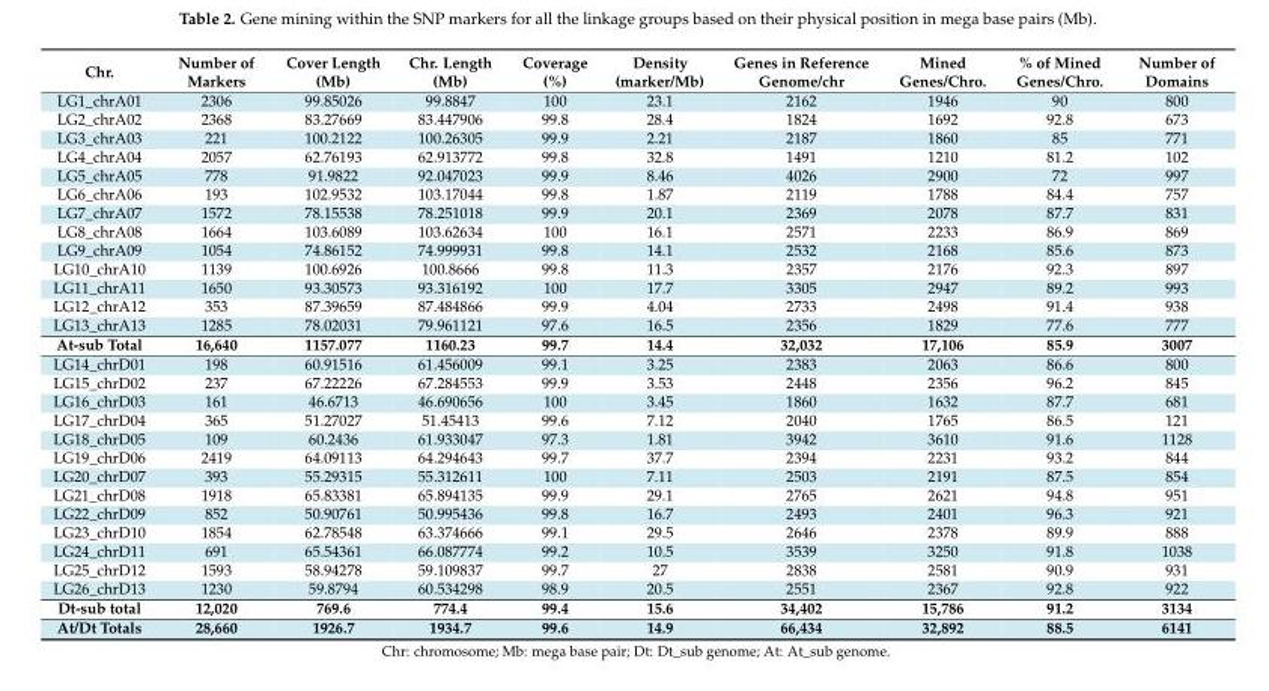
<table><thead><tr><td>Chr.</td><td>Number of Markers</td><td>Cover Length (Mb)</td><td>Chr. Length (Mb)</td><td>Coverage (%)</td><td>Density (marker/Mb)</td><td>Genes in Reference Genome/chr</td><td>Mined Genes/Chro.</td><td>% of Mined Genes/Chro.</td><td>Number of Domains</td></tr></thead><tbody><tr><td>LG1_chrA01</td><td>2306</td><td>99.85026</td><td>99.8847</td><td>100</td><td>23.1</td><td>2162</td><td>1946</td><td>90</td><td>800</td></tr><tr><td>LG2_chrA02</td><td>2368</td><td>83.27669</td><td>83.447906</td><td>99.8</td><td>28.4</td><td>1824</td><td>1692</td><td>92.8</td><td>673</td></tr><tr><td>LG3_chrA03</td><td>221</td><td>100.2122</td><td>100.26305</td><td>99.9</td><td>2.21</td><td>2187</td><td>1860</td><td>85</td><td>771</td></tr><tr><td>LG4_chrA04</td><td>2057</td><td>62.76193</td><td>62.913772</td><td>99.8</td><td>32.8</td><td>1491</td><td>1210</td><td>81.2</td><td>102</td></tr><tr><td>LG5_chrA05</td><td>778</td><td>91.9822</td><td>92.047023</td><td>99.9</td><td>8.46</td><td>4026</td><td>2900</td><td>72</td><td>997</td></tr><tr><td>LG6_chrA06</td><td>193</td><td>102.9532</td><td>103.17044</td><td>99.8</td><td>1.87</td><td>2119</td><td>1788</td><td>84.4</td><td>757</td></tr><tr><td>LG7_chrA07</td><td>1572</td><td>78.15538</td><td>78.251018</td><td>99.9</td><td>20.1</td><td>2369</td><td>2078</td><td>87.7</td><td>831</td></tr><tr><td>LG8_chrA08</td><td>1664</td><td>103.6089</td><td>103.62634</td><td>100</td><td>16.1</td><td>2571</td><td>2233</td><td>86.9</td><td>869</td></tr><tr><td>LG9_chrA09</td><td>1054</td><td>74.86152</td><td>74.999931</td><td>99.8</td><td>14.1</td><td>2532</td><td>2168</td><td>85.6</td><td>873</td></tr><tr><td>LG10_chrA10</td><td>1139</td><td>100.6926</td><td>100.8666</td><td>99.8</td><td>11.3</td><td>2357</td><td>2176</td><td>92.3</td><td>897</td></tr><tr><td>LG11_chrA11</td><td>1650</td><td>93.30573</td><td>93.316192</td><td>100</td><td>17.7</td><td>3305</td><td>2947</td><td>89.2</td><td>993</td></tr><tr><td>LG12_chrA12</td><td>353</td><td>87.39659</td><td>87.484866</td><td>99.9</td><td>4.04</td><td>2733</td><td>2498</td><td>91.4</td><td>938</td></tr><tr><td>LG13_chrA13</td><td>1285</td><td>78.02031</td><td>79.961121</td><td>97.6</td><td>16.5</td><td>2356</td><td>1829</td><td>77.6</td><td>777</td></tr><tr><td>At-sub Total</td><td>16,640</td><td>1157.077</td><td>1160.23</td><td>99.7</td><td>14.4</td><td>32,032</td><td>17,106</td><td>85.9</td><td>3007</td></tr><tr><td>LG14_chrD01</td><td>198</td><td>60.91516</td><td>61.456009</td><td>99.1</td><td>3.25</td><td>2383</td><td>2063</td><td>86.6</td><td>800</td></tr><tr><td>LG15_chrD02</td><td>237</td><td>67.22226</td><td>67.284553</td><td>99.9</td><td>3.53</td><td>2448</td><td>2356</td><td>96.2</td><td>845</td></tr><tr><td>LG16_chrD03</td><td>161</td><td>46.6713</td><td>46.690656</td><td>100</td><td>3.45</td><td>1860</td><td>1632</td><td>87.7</td><td>681</td></tr><tr><td>LG17_chrD04</td><td>365</td><td>51.27027</td><td>51.45413</td><td>99.6</td><td>7.12</td><td>2040</td><td>1765</td><td>86.5</td><td>121</td></tr><tr><td>LG18_chrD05</td><td>109</td><td>60.2436</td><td>61.933047</td><td>97.3</td><td>1.81</td><td>3942</td><td>3610</td><td>91.6</td><td>1128</td></tr><tr><td>LG19_chrD06</td><td>2419</td><td>64.09113</td><td>64.294643</td><td>99.7</td><td>37.7</td><td>2394</td><td>2231</td><td>93.2</td><td>844</td></tr><tr><td>LG20_chrD07</td><td>393</td><td>55.29315</td><td>55.312611</td><td>100</td><td>7.11</td><td>2503</td><td>2191</td><td>87.5</td><td>854</td></tr><tr><td>LG21_chrD08</td><td>1918</td><td>65.83381</td><td>65.894135</td><td>99.9</td><td>29.1</td><td>2765</td><td>2621</td><td>94.8</td><td>951</td></tr><tr><td>LG22_chrD09</td><td>852</td><td>50.90761</td><td>50.995436</td><td>99.8</td><td>16.7</td><td>2493</td><td>2401</td><td>96.3</td><td>921</td></tr><tr><td>LG23_chrD10</td><td>1854</td><td>62.78548</td><td>63.374666</td><td>99.1</td><td>29.5</td><td>2646</td><td>2378</td><td>89.9</td><td>888</td></tr><tr><td>LG24_chrD11</td><td>691</td><td>65.54361</td><td>66.087774</td><td>99.2</td><td>10.5</td><td>3539</td><td>3250</td><td>91.8</td><td>1038</td></tr><tr><td>LG25_chrD12</td><td>1593</td><td>58.94278</td><td>59.109837</td><td>99.7</td><td>27</td><td>2838</td><td>2581</td><td>90.9</td><td>931</td></tr><tr><td>LG26_chrD13</td><td>1230</td><td>59.8794</td><td>60.534298</td><td>98.9</td><td>20.5</td><td>2551</td><td>2367</td><td>92.8</td><td>922</td></tr><tr><td>Dt-sub total</td><td>12,020</td><td>769.6</td><td>774.4</td><td>99.4</td><td>15.6</td><td>34,402</td><td>15,786</td><td>91.2</td><td>3134</td></tr><tr><td>At/Dt Totals</td><td>28,660</td><td>1926.7</td><td>1934.7</td><td>99.6</td><td>14.9</td><td>66,434</td><td>32,892</td><td>88.5</td><td>6141</td></tr></tbody></table>